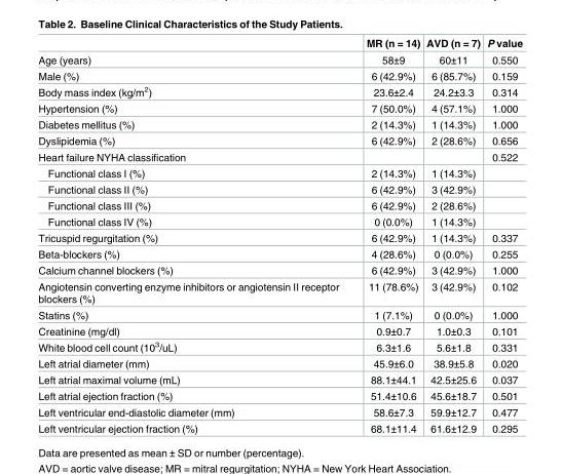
<table><thead><tr><td></td><td>MR (n = 14)</td><td>AVD (n = 7)</td><td>P value</td></tr></thead><tbody><tr><td>Age (years)</td><td>58±9</td><td>60±11</td><td>0.550</td></tr><tr><td>Male (%)</td><td>6 (42.9%)</td><td>6 (85.7%)</td><td>0.159</td></tr><tr><td>Body mass index (kg/m<sup>2</sup>)</td><td>23.6±2.4</td><td>24.2±3.3</td><td>0.314</td></tr><tr><td>Hypertension (%)</td><td>7 (50.0%)</td><td>4 (57.1%)</td><td>1.000</td></tr><tr><td>Diabetes mellitus (%)</td><td>2 (14.3%)</td><td>1 (14.3%)</td><td>1.000</td></tr><tr><td>Dyslipidemia (%)</td><td>6 (42.9%)</td><td>2 (28.6%)</td><td>0.656</td></tr><tr><td>Heart failure NYHA classification</td><td></td><td></td><td>0.522</td></tr><tr><td>Functional class I (%)</td><td>2 (14.3%)</td><td>1 (14.3%)</td><td></td></tr><tr><td>Functional class II (%)</td><td>6 (42.9%)</td><td>3 (42.9%)</td><td></td></tr><tr><td>Functional class III (%)</td><td>6 (42.9%)</td><td>2 (28.6%)</td><td></td></tr><tr><td>Functional class IV (%)</td><td>0 (0.0%)</td><td>1 (14.3%)</td><td></td></tr><tr><td>Tricuspid regurgitation (%)</td><td>6 (42.9%)</td><td>1 (14.3%)</td><td>0.337</td></tr><tr><td>Beta-blockers (%)</td><td>4 (28.6%)</td><td>0 (0.0%)</td><td>0.255</td></tr><tr><td>Calcium channel blockers (%)</td><td>6 (42.9%)</td><td>3 (42.9%)</td><td>1.000</td></tr><tr><td>Angiotensin converting enzyme inhibitors or angiotensin II receptor blockers (%)</td><td>11 (78.6%)</td><td>3 (42.9%)</td><td>0.102</td></tr><tr><td>Statins (%)</td><td>1 (7.1%)</td><td>0 (0.0%)</td><td>1.000</td></tr><tr><td>Creatinine (mg/dl)</td><td>0.9±0.7</td><td>1.0±0.3</td><td>0.101</td></tr><tr><td>White blood cell count (10<sup>3</sup>/uL)</td><td>6.3±1.6</td><td>5.6±1.8</td><td>0.331</td></tr><tr><td>Left atrial diameter (mm)</td><td>45.9±6.0</td><td>38.9±5.8</td><td>0.020</td></tr><tr><td>Left atrial maximal volume (mL)</td><td>88.1±44.1</td><td>42.5±25.6</td><td>0.037</td></tr><tr><td>Left atrial ejection fraction (%)</td><td>51.4±10.6</td><td>45.6±18.7</td><td>0.501</td></tr><tr><td>Left ventricular end-diastolic diameter (mm)</td><td>58.6±7.3</td><td>59.9±12.7</td><td>0.477</td></tr><tr><td>Left ventricular ejection fraction (%)</td><td>68.1±11.4</td><td>61.6±12.9</td><td>0.295</td></tr></tbody></table>